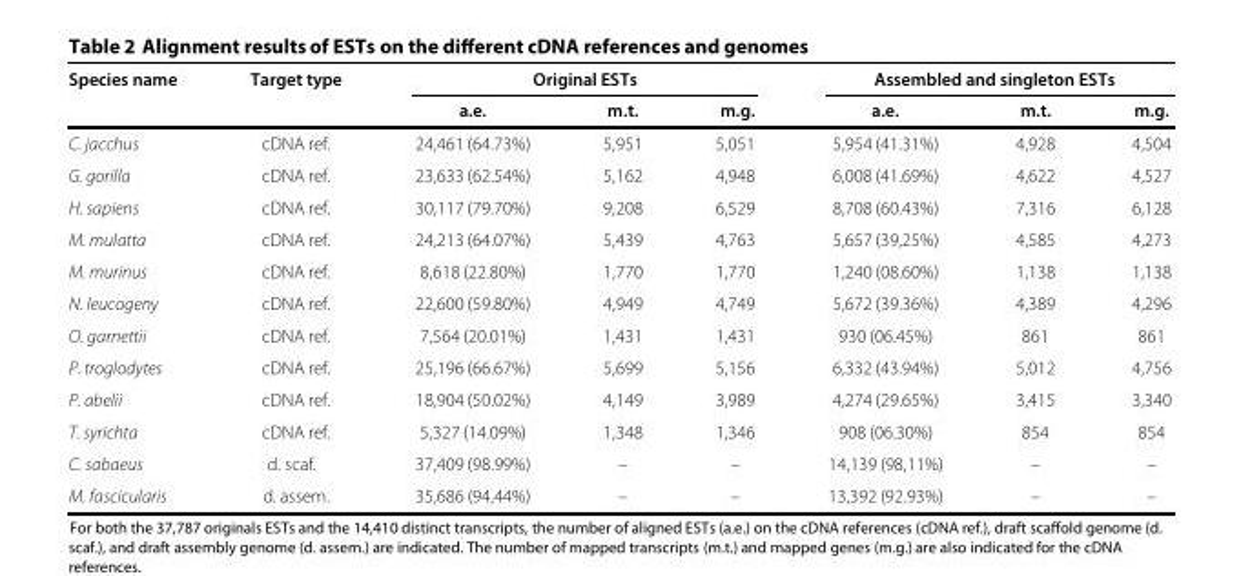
<table><thead><tr><td rowspan="2">Species name</td><td rowspan="2">Target type</td><td colspan="3">Original ESTs</td><td colspan="3">Assembled and singleton ESTs</td></tr><tr><td>a.e.</td><td>m.t.</td><td>m.g.</td><td>a.e.</td><td>m.t.</td><td>m.g.</td></tr></thead><tbody><tr><td>C. jacchus</td><td>cDNA ref.</td><td>24,461 (64.73%)</td><td>5,951</td><td>5,051</td><td>5,954 (41.31%)</td><td>4,928</td><td>4,504</td></tr><tr><td>G. gorilla</td><td>cDNA ref.</td><td>23,633 (62.54%)</td><td>5,162</td><td>4,948</td><td>6,008 (41.69%)</td><td>4,622</td><td>4,527</td></tr><tr><td>H. sapiens</td><td>cDNA ref.</td><td>30,117 (79.70%)</td><td>9,208</td><td>6,529</td><td>8,708 (60.43%)</td><td>7,316</td><td>6,128</td></tr><tr><td>M. mulatta</td><td>cDNA ref.</td><td>24,213 (64.07%)</td><td>5,439</td><td>4,763</td><td>5,657 (39,25%)</td><td>4,585</td><td>4,273</td></tr><tr><td>M. murinus</td><td>cDNA ref.</td><td>8,618 (22.80%)</td><td>1,770</td><td>1,770</td><td>1,240 (08.60%)</td><td>1,138</td><td>1,138</td></tr><tr><td>N. leucogeny</td><td>cDNA ref.</td><td>22,600 (59.80%)</td><td>4,949</td><td>4,749</td><td>5,672 (39.36%)</td><td>4,389</td><td>4,296</td></tr><tr><td>O. garnettii</td><td>cDNA ref.</td><td>7,564 (20.01%)</td><td>1,431</td><td>1,431</td><td>930 (06.45%)</td><td>861</td><td>861</td></tr><tr><td>P. troglodytes</td><td>cDNA ref.</td><td>25,196 (66.67%)</td><td>5,699</td><td>5,156</td><td>6,332 (43.94%)</td><td>5,012</td><td>4,756</td></tr><tr><td>P. abelii</td><td>cDNA ref.</td><td>18,904 (50.02%)</td><td>4,149</td><td>3,989</td><td>4,274 (29.65%)</td><td>3,415</td><td>3,340</td></tr><tr><td>T. syrichta</td><td>cDNA ref.</td><td>5,327 (14.09%)</td><td>1,348</td><td>1,346</td><td>908 (06.30%)</td><td>854</td><td>854</td></tr><tr><td>C. sabaeus</td><td>d. scaf.</td><td>37,409 (98.99%)</td><td>–</td><td>–</td><td>14,139 (98,11%)</td><td>–</td><td>–</td></tr><tr><td>M. fascicularis</td><td>d. assem.</td><td>35,686 (94,44%)</td><td>–</td><td>–</td><td>13,392 (92.93%)</td><td>–</td><td>–</td></tr></tbody></table>